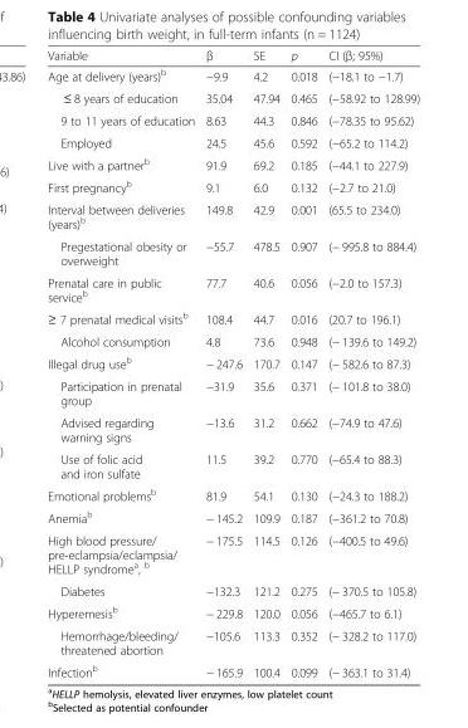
<table><thead><tr><td>Variable</td><td>β</td><td>SE</td><td>p</td><td>CI (β; 95%)</td></tr></thead><tbody><tr><td>Age at delivery (years)<sup>b</sup></td><td>−9.9</td><td>4.2</td><td>0.018</td><td>(−18.1 to −1.7)</td></tr><tr><td>≤ 8 years of education</td><td>35.04</td><td>47.94</td><td>0.465</td><td>(−58.92 to 128.99)</td></tr><tr><td>9 to 11 years of education</td><td>8.63</td><td>44.3</td><td>0.846</td><td>(−78.35 to 95.62)</td></tr><tr><td>Employed</td><td>24.5</td><td>45.6</td><td>0.592</td><td>(−65.2 to 114.2)</td></tr><tr><td>Live with a partner<sup>b</sup></td><td>91.9</td><td>69.2</td><td>0.185</td><td>(−44.1 to 227.9)</td></tr><tr><td>First pregnancy<sup>b</sup></td><td>9.1</td><td>6.0</td><td>0.132</td><td>(−2.7 to 21.0)</td></tr><tr><td>Interval between deliveries (years)<sup>b</sup></td><td>149.8</td><td>42.9</td><td>0.001</td><td>(65.5 to 234.0)</td></tr><tr><td>Pregestational obesity or overweight</td><td>−55.7</td><td>478.5</td><td>0.907</td><td>(− 995.8 to 884.4)</td></tr><tr><td>Prenatal care in public service<sup>b</sup></td><td>77.7</td><td>40.6</td><td>0.056</td><td>(−2.0 to 157.3)</td></tr><tr><td>≥ 7 prenatal medical visits<sup>b</sup></td><td>108.4</td><td>44.7</td><td>0.016</td><td>(20.7 to 196.1)</td></tr><tr><td>Alcohol consumption</td><td>4.8</td><td>73.6</td><td>0.948</td><td>(− 139.6 to 149.2)</td></tr><tr><td>Illegal drug use<sup>b</sup></td><td>− 247.6</td><td>170.7</td><td>0.147</td><td>(− 582.6 to 87.3)</td></tr><tr><td>Participation in prenatal group</td><td>−31.9</td><td>35.6</td><td>0.371</td><td>(− 101.8 to 38.0)</td></tr><tr><td>Advised regarding warning signs</td><td>−13.6</td><td>31.2</td><td>0.662</td><td>(−74.9 to 47.6)</td></tr><tr><td>Use of folic acid and iron sulfate</td><td>11.5</td><td>39.2</td><td>0.770</td><td>(−65.4 to 88.3)</td></tr><tr><td>Emotional problems<sup>b</sup></td><td>81.9</td><td>54.1</td><td>0.130</td><td>(−24.3 to 188.2)</td></tr><tr><td>Anemia<sup>b</sup></td><td>− 145.2</td><td>109.9</td><td>0.187</td><td>(−361.2 to 70.8)</td></tr><tr><td>High blood pressure/ pre-eclampsia/eclampsia/ HELLP syndrome<sup>a</sup>, <sup>b</sup></td><td>− 175.5</td><td>114.5</td><td>0.126</td><td>(−400.5 to 49.6)</td></tr><tr><td>Diabetes</td><td>−132.3</td><td>121.2</td><td>0.275</td><td>(− 370.5 to 105.8)</td></tr><tr><td>Hyperemesis<sup>b</sup></td><td>− 229.8</td><td>120.0</td><td>0.056</td><td>(−465.7 to 6.1)</td></tr><tr><td>Hemorrhage/bleeding/ threatened abortion</td><td>−105.6</td><td>113.3</td><td>0.352</td><td>(− 328.2 to 117.0)</td></tr><tr><td>Infection<sup>b</sup></td><td>− 165.9</td><td>100.4</td><td>0.099</td><td>(− 363.1 to 31.4)</td></tr></tbody></table>